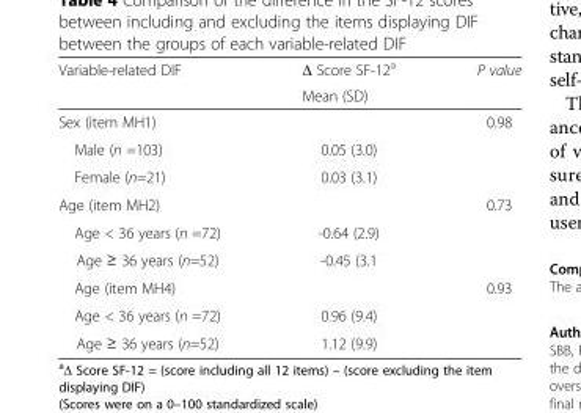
<table><thead><tr><td rowspan="2">Variable-related DIF</td><td rowspan="2">Δ Score SF-12a Mean (SD)</td><td rowspan="2">P value</td></tr><tr></tr></thead><tbody><tr><td>Sex (item MH1)</td><td></td><td>0.98</td></tr><tr><td>Male (n =103)</td><td>0.05 (3.0)</td><td rowspan="2"></td></tr><tr><td>Female (n=21)</td><td>0.03 (3.1)</td></tr><tr><td>Age (item MH2)</td><td></td><td>0.73</td></tr><tr><td>Age &lt; 36 years (n =72)</td><td>-0.64 (2.9)</td><td rowspan="2"></td></tr><tr><td>Age ≥ 36 years (n=52)</td><td>-0.45 (3.1</td></tr><tr><td>Age (item MH4)</td><td></td><td>0.93</td></tr><tr><td>Age &lt; 36 years (n =72)</td><td>0.96 (9.4)</td><td rowspan="2"></td></tr><tr><td>Age ≥ 36 years (n=52)</td><td>1.12 (9.9)</td></tr></tbody></table>